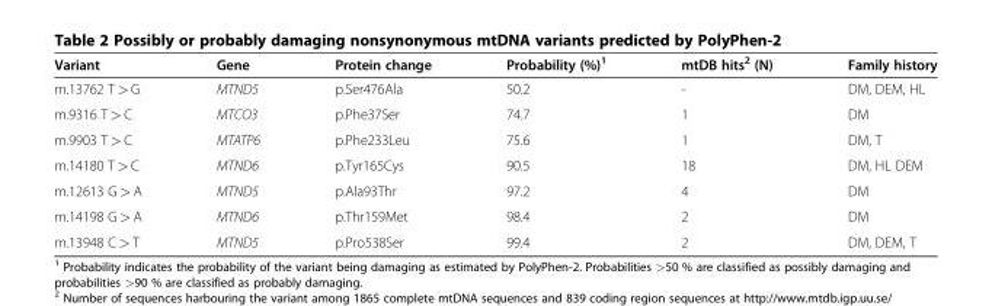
<table><thead><tr><td>Variant</td><td>Gene</td><td>Protein change</td><td>Probability (%)<sup>1</sup></td><td>mtDB hits<sup>2</sup> (N)</td><td>Family history</td></tr></thead><tbody><tr><td>m.13762 T &gt; G</td><td>MTND5</td><td>p.Ser476Ala</td><td>50.2</td><td>-</td><td>DM, DEM, HL</td></tr><tr><td>m.9316 T &gt; C</td><td>MTCO3</td><td>p.Phe37Ser</td><td>74.7</td><td>1</td><td>DM</td></tr><tr><td>m.9903 T &gt; C</td><td>MTATP6</td><td>p.Phe233Leu</td><td>75.6</td><td>1</td><td>DM, T</td></tr><tr><td>m.14180 T &gt; C</td><td>MTND6</td><td>p.Tyr165Cys</td><td>90.5</td><td>18</td><td>DM, HL DEM</td></tr><tr><td>m.12613 G &gt; A</td><td>MTND5</td><td>p.Ala93Thr</td><td>97.2</td><td>4</td><td>DM</td></tr><tr><td>m.14198 G &gt; A</td><td>MTND6</td><td>p.Thr159Met</td><td>98.4</td><td>2</td><td>DM</td></tr><tr><td>m.13948 C &gt; T</td><td>MTND5</td><td>p.Pro538Ser</td><td>99.4</td><td>2</td><td>DM, DEM, T</td></tr></tbody></table>